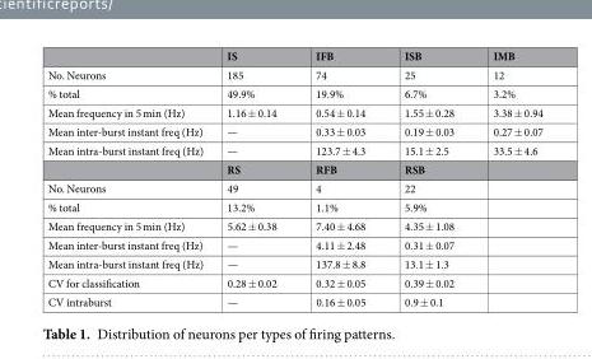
<table><thead><tr><td></td><td>IS</td><td>IFB</td><td>ISB</td><td>IMB</td></tr></thead><tbody><tr><td>No. Neurons</td><td>185</td><td>74</td><td>25</td><td>12</td></tr><tr><td>% total</td><td>49.9%</td><td>19.9%</td><td>6.7%</td><td>3.2%</td></tr><tr><td>Mean frequency in 5 min (Hz)</td><td>1.16 ± 0.14</td><td>0.54 ± 0.14</td><td>1.55 ± 0.28</td><td>3.38 ± 0.94</td></tr><tr><td>Mean inter-burst instant freq (Hz)</td><td>—</td><td>0.33 ± 0.03</td><td>0.19 ± 0.03</td><td>0.27 ± 0.07</td></tr><tr><td rowspan="2">Mean intra-burst instant freq (Hz)</td><td>—</td><td>123.7 ± 4.3</td><td>15.1 ± 2.5</td><td>33.5 ± 4.6</td></tr><tr><td>RS</td><td>RFB</td><td>RSB</td><td></td></tr><tr><td>No. Neurons</td><td>49</td><td>4</td><td>22</td><td></td></tr><tr><td>% total</td><td>13.2%</td><td>1.1%</td><td>5.9%</td><td></td></tr><tr><td>Mean frequency in 5 min (Hz)</td><td>5.62 ± 0.38</td><td>7.40 ± 4.68</td><td>4.35 ± 1.08</td><td></td></tr><tr><td>Mean inter-burst instant freq (Hz)</td><td>—</td><td>4.11 ± 2.48</td><td>0.31 ± 0.07</td><td></td></tr><tr><td>Mean intra-burst instant freq (Hz)</td><td>—</td><td>137.8 ± 8.8</td><td>13.1 ± 1.3</td><td></td></tr><tr><td>CV for classification</td><td>0.28 ± 0.02</td><td>0.32 ± 0.05</td><td>0.39 ± 0.02</td><td></td></tr><tr><td>CV intraburst</td><td>—</td><td>0.16 ± 0.05</td><td>0.9 ± 0.1</td><td></td></tr></tbody></table>